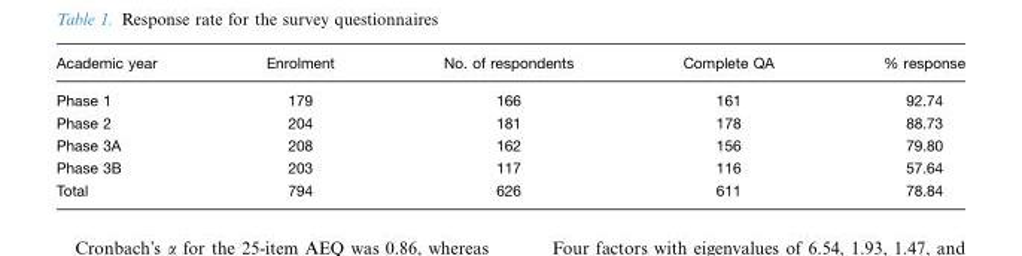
<table><thead><tr><td>Academic year</td><td>Enrolment</td><td>No. of respondents</td><td>Complete QA</td><td>% response</td></tr></thead><tbody><tr><td>Phase 1</td><td>179</td><td>166</td><td>161</td><td>92.74</td></tr><tr><td>Phase 2</td><td>204</td><td>181</td><td>178</td><td>88.73</td></tr><tr><td>Phase 3A</td><td>208</td><td>162</td><td>156</td><td>79.80</td></tr><tr><td>Phase 3B</td><td>203</td><td>117</td><td>116</td><td>57.64</td></tr><tr><td>Total</td><td>794</td><td>626</td><td>611</td><td>78.84</td></tr></tbody></table>